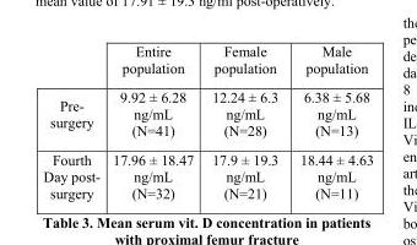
<table><thead><tr><td></td><td>Entire population</td><td>Female population</td><td>Male population</td></tr></thead><tbody><tr><td>Pre- surgery</td><td>9.92 ± 6.28 ng/mL (N=41)</td><td>12.24 ± 6.3 ng/mL (N=28)</td><td>6.38 ± 5.68 ng/mL (N=13)</td></tr><tr><td>Fourth Day post- surgery</td><td>17.96 ± 18.47 ng/mL (N=32)</td><td>17.9 ± 19.3 ng/mL (N=21)</td><td>18.44 ± 4.63 ng/mL (N=11)</td></tr></tbody></table>